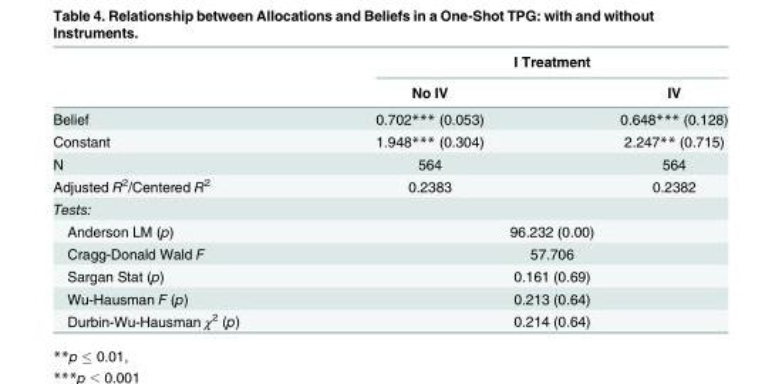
<table><thead><tr><td rowspan="2"></td><td colspan="2">I Treatment</td></tr><tr><td>No IV</td><td>IV</td></tr></thead><tbody><tr><td>Belief</td><td>0.702*** (0.053)</td><td>0.648*** (0.128)</td></tr><tr><td>Constant</td><td>1.948*** (0.304)</td><td>2.247** (0.715)</td></tr><tr><td>N</td><td>564</td><td>564</td></tr><tr><td>Adjusted R<sup>2</sup>/Centered R<sup>2</sup></td><td>0.2383</td><td>0.2382</td></tr><tr><td colspan="3">Tests:</td></tr><tr><td>Anderson LM (p)</td><td colspan="2">96.232 (0.00)</td></tr><tr><td>Cragg-Donald Wald F</td><td colspan="2">57.706</td></tr><tr><td>Sargan Stat (p)</td><td colspan="2">0.161 (0.69)</td></tr><tr><td>Wu-Hausman F (p)</td><td colspan="2">0.213 (0.64)</td></tr><tr><td>Durbin-Wu-Hausman χ<sup>2</sup> (p)</td><td colspan="2">0.214 (0.64)</td></tr></tbody></table>